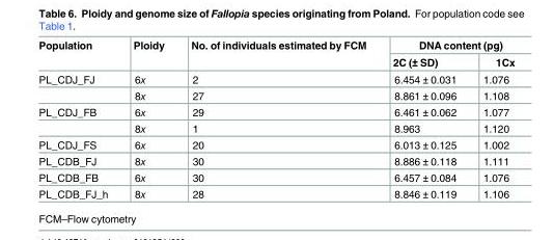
<table><thead><tr><td rowspan="2">Population</td><td rowspan="2">Ploidy</td><td rowspan="2">No. of individuals estimated by FCM</td><td colspan="2">DNA content (pg)</td></tr><tr><td>2C (± SD)</td><td>1Cx</td></tr></thead><tbody><tr><td rowspan="2">PL_CDJ_FJ</td><td>6x</td><td>2</td><td>6.454 ± 0.031</td><td>1.076</td></tr><tr><td>8x</td><td>27</td><td>8.861 ± 0.096</td><td>1.108</td></tr><tr><td rowspan="2">PL_CDJ_FB</td><td>6x</td><td>29</td><td>6.461 ± 0.062</td><td>1.077</td></tr><tr><td>8x</td><td>1</td><td>8.963</td><td>1.120</td></tr><tr><td>PL_CDJ_FS</td><td>6x</td><td>20</td><td>6.013 ± 0.125</td><td>1.002</td></tr><tr><td>PL_CDB_FJ</td><td>8x</td><td>30</td><td>8.886 ± 0.118</td><td>1.111</td></tr><tr><td>PL_CDB_FB</td><td>6x</td><td>30</td><td>6.457 ± 0.084</td><td>1.076</td></tr><tr><td>PL_CDB_FJ_h</td><td>8x</td><td>28</td><td>8.846 ± 0.119</td><td>1.106</td></tr></tbody></table>